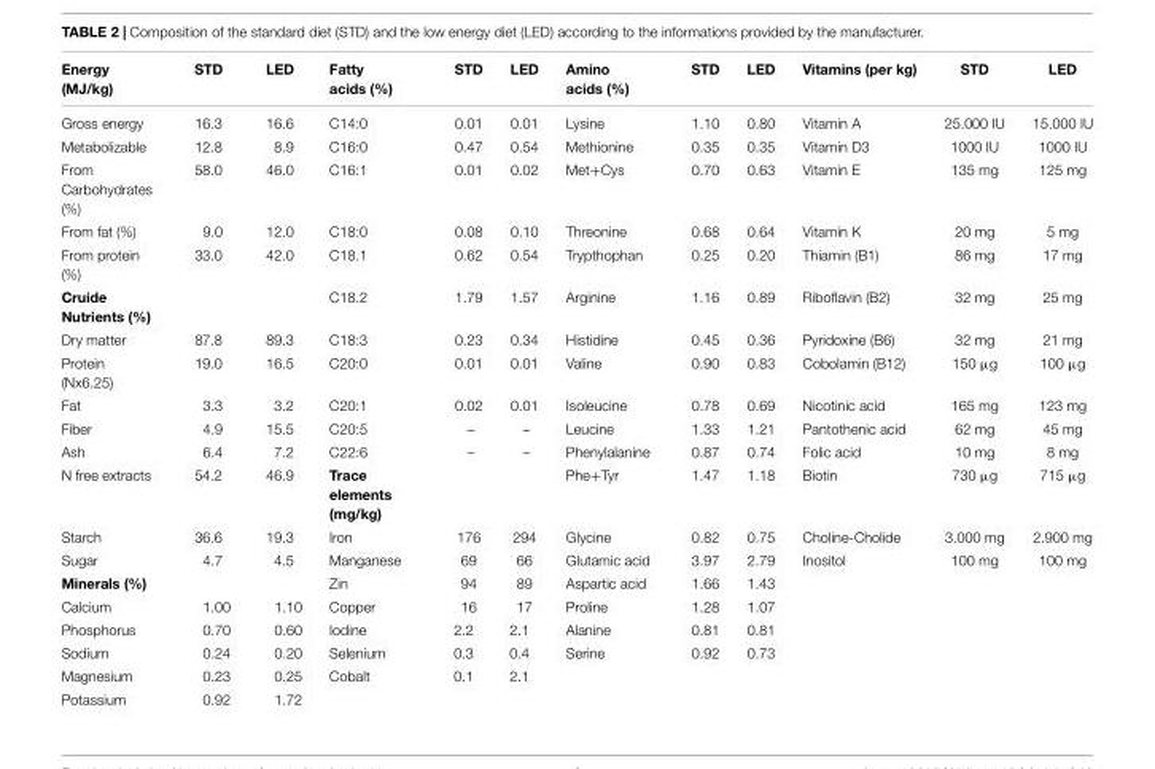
<table><thead><tr><td>Energy (MJ/kg)</td><td>STD</td><td>LED</td><td>Fatty acids (%)</td><td>STD</td><td>LED</td><td>Amino acids (%)</td><td>STD</td><td>LED</td><td>Vitamins (per kg)</td><td>STD</td><td>LED</td></tr></thead><tbody><tr><td>Gross energy</td><td>16.3</td><td>16.6</td><td>C14:0</td><td>0.01</td><td>0.01</td><td>Lysine</td><td>1.10</td><td>0.80</td><td>Vitamin A</td><td>25.000 IU</td><td>15.000 IU</td></tr><tr><td>Metabolizable</td><td>12.8</td><td>8.9</td><td>C16:0</td><td>0.47</td><td>0.54</td><td>Methionine</td><td>0.35</td><td>0.35</td><td>Vitamin D3</td><td>1000 IU</td><td>1000 IU</td></tr><tr><td>From Carbohydrates (%)</td><td>58.0</td><td>46.0</td><td>C16:1</td><td>0.01</td><td>0.02</td><td>Met+Cys</td><td>0.70</td><td>0.63</td><td>Vitamin E</td><td>135 mg</td><td>125 mg</td></tr><tr><td>From fat (%)</td><td>9.0</td><td>12.0</td><td>C18:0</td><td>0.08</td><td>0.10</td><td>Threonine</td><td>0.68</td><td>0.64</td><td>Vitamin K</td><td>20 mg</td><td>5 mg</td></tr><tr><td>From protein (%)</td><td>33.0</td><td>42.0</td><td>C18.1</td><td>0.62</td><td>0.54</td><td>Trypthophan</td><td>0.25</td><td>0.20</td><td>Thiamin (B1)</td><td>86 mg</td><td>17 mg</td></tr><tr><td>Cruide Nutrients (%)</td><td></td><td></td><td>C18.2</td><td>1.79</td><td>1.57</td><td>Arginine</td><td>1.16</td><td>0.89</td><td>Riboflavin (B2)</td><td>32 mg</td><td>25 mg</td></tr><tr><td>Dry matter</td><td>87.8</td><td>89.3</td><td>C18:3</td><td>0.23</td><td>0.34</td><td>Histidine</td><td>0.45</td><td>0.36</td><td>Pyridoxine (B6)</td><td>32 mg</td><td>21 mg</td></tr><tr><td>Protein (Nx6.25)</td><td>19.0</td><td>16.5</td><td>C20:0</td><td>0.01</td><td>0.01</td><td>Valine</td><td>0.90</td><td>0.83</td><td>Cobolamin (B12)</td><td>150 µg</td><td>100 µg</td></tr><tr><td>Fat</td><td>3.3</td><td>3.2</td><td>C20:1</td><td>0.02</td><td>0.01</td><td>Isoleucine</td><td>0.78</td><td>0.69</td><td>Nicotinic acid</td><td>165 mg</td><td>123 mg</td></tr><tr><td>Fiber</td><td>4.9</td><td>15.5</td><td>C20:5</td><td>–</td><td>–</td><td>Leucine</td><td>1.33</td><td>1.21</td><td>Pantothenic acid</td><td>62 mg</td><td>45 mg</td></tr><tr><td>Ash</td><td>6.4</td><td>7.2</td><td>C22:6</td><td>–</td><td>–</td><td>Phenylalanine</td><td>0.87</td><td>0.74</td><td>Folic acid</td><td>10 mg</td><td>8 mg</td></tr><tr><td>N free extracts</td><td>54.2</td><td>46.9</td><td>Trace elements (mg/kg)</td><td></td><td></td><td>Phe+Tyr</td><td>1.47</td><td>1.18</td><td>Biotin</td><td>730 µg</td><td>715 µg</td></tr><tr><td>Starch</td><td>36.6</td><td>19.3</td><td>Iron</td><td>176</td><td>294</td><td>Glycine</td><td>0.82</td><td>0.75</td><td>Choline-Cholide</td><td>3.000 mg</td><td>2.900 mg</td></tr><tr><td>Sugar</td><td>4.7</td><td>4.5</td><td>Manganese</td><td>69</td><td>66</td><td>Glutamic acid</td><td>3.97</td><td>2.79</td><td>Inositol</td><td>100 mg</td><td>100 mg</td></tr><tr><td>Minerals (%)</td><td></td><td></td><td>Zin</td><td>94</td><td>89</td><td>Aspartic acid</td><td>1.66</td><td>1.43</td><td></td><td></td><td></td></tr><tr><td>Calcium</td><td>1.00</td><td>1.10</td><td>Copper</td><td>16</td><td>17</td><td>Proline</td><td>1.28</td><td>1.07</td><td></td><td></td><td></td></tr><tr><td>Phosphorus</td><td>0.70</td><td>0.60</td><td>Iodine</td><td>2.2</td><td>2.1</td><td>Alanine</td><td>0.81</td><td>0.81</td><td></td><td></td><td></td></tr><tr><td>Sodium</td><td>0.24</td><td>0.20</td><td>Selenium</td><td>0.3</td><td>0.4</td><td>Serine</td><td>0.92</td><td>0.73</td><td></td><td></td><td></td></tr><tr><td>Magnesium</td><td>0.23</td><td>0.25</td><td>Cobalt</td><td>0.1</td><td>2.1</td><td></td><td></td><td></td><td></td><td></td><td></td></tr><tr><td>Potassium</td><td>0.92</td><td>1.72</td><td></td><td></td><td></td><td></td><td></td><td></td><td></td><td></td><td></td></tr></tbody></table>